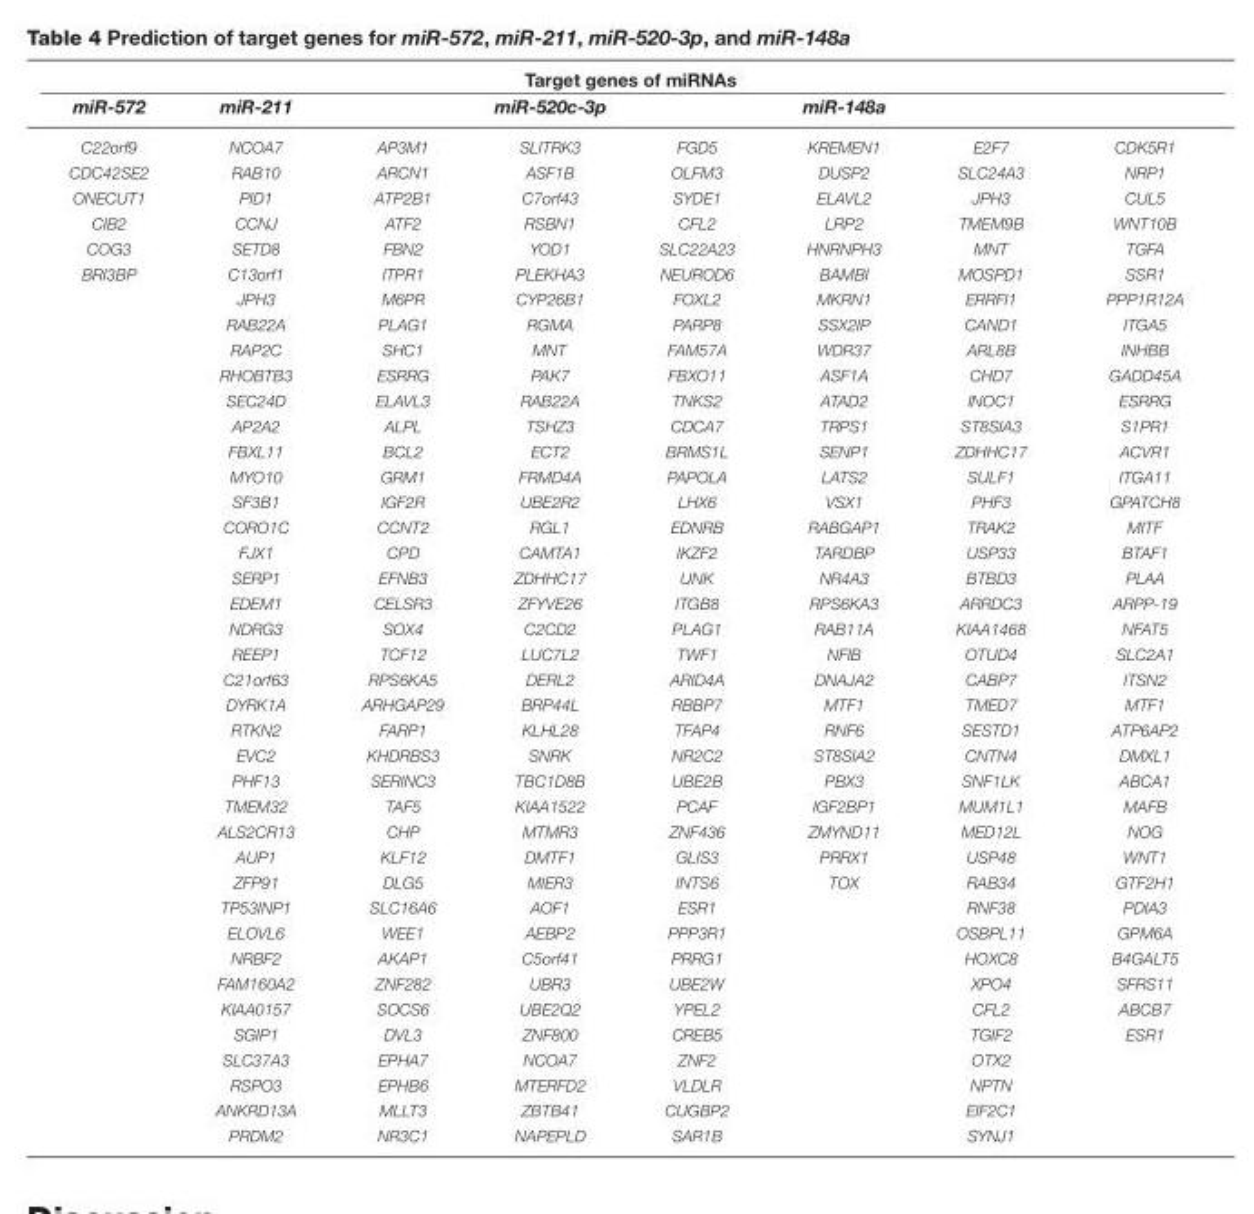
<table><thead><tr><td colspan="8">Target genes of miRNAs</td></tr><tr><td>miR-572</td><td>miR-211</td><td></td><td>miR-520c-3p</td><td></td><td>miR-148a</td><td></td><td></td></tr></thead><tbody><tr><td>C22orf9</td><td>NCOA7</td><td>AP3M1</td><td>SLITRK3</td><td>FGD5</td><td>KREMEN1</td><td>E2F7</td><td>CDK5R1</td></tr><tr><td>CDC42SE2</td><td>RAB10</td><td>ARCN1</td><td>ASF1B</td><td>OLFM3</td><td>DUSP2</td><td>SLC24A3</td><td>NRP1</td></tr><tr><td>ONECUT1</td><td>PID1</td><td>ATP2B1</td><td>C7orf43</td><td>SYDE1</td><td>ELAVL2</td><td>JPH3</td><td>CUL5</td></tr><tr><td>CIB2</td><td>CCNJ</td><td>ATF2</td><td>RSBN1</td><td>CFL2</td><td>LRP2</td><td>TMEM9B</td><td>WNT10B</td></tr><tr><td>COG3</td><td>SETD8</td><td>FBN2</td><td>YOD1</td><td>SLC22A23</td><td>HNRNPH3</td><td>MNT</td><td>TGFA</td></tr><tr><td rowspan="35">BRI3BP</td><td>C13orf1</td><td>ITPR1</td><td>PLEKHA3</td><td>NEUROD6</td><td>BAMBI</td><td>MOSPD1</td><td>SSR1</td></tr><tr><td>JPH3</td><td>M6PR</td><td>CYP26B1</td><td>FOXL2</td><td>MKRN1</td><td>ERRFI1</td><td>PPP1R12A</td></tr><tr><td>RAB22A</td><td>PLAG1</td><td>RGMA</td><td>PARP8</td><td>SSX2IP</td><td>CAND1</td><td>ITGA5</td></tr><tr><td>RAP2C</td><td>SHC1</td><td>MNT</td><td>FAM57A</td><td>WDR37</td><td>ARL8B</td><td>INHBB</td></tr><tr><td>RHOBTB3</td><td>ESRRG</td><td>PAK7</td><td>FBXO11</td><td>ASF1A</td><td>CHD7</td><td>GADD45A</td></tr><tr><td>SEC24D</td><td>ELAVL3</td><td>RAB22A</td><td>TNKS2</td><td>ATAD2</td><td>INOC1</td><td>ESRRG</td></tr><tr><td>AP2A2</td><td>ALPL</td><td>TSHZ3</td><td>CDCA7</td><td>TRPS1</td><td>ST8SIA3</td><td>S1PR1</td></tr><tr><td>FBXL11</td><td>BCL2</td><td>ECT2</td><td>BRMS1L</td><td>SENP1</td><td>ZDHHC17</td><td>ACVR1</td></tr><tr><td>MYO10</td><td>GRM1</td><td>FRMD4A</td><td>PAPOLA</td><td>LATS2</td><td>SULF1</td><td>ITGA11</td></tr><tr><td>SF3B1</td><td>IGF2R</td><td>UBE2R2</td><td>LHX6</td><td>VSX1</td><td>PHF3</td><td>GPATCH8</td></tr><tr><td>CORO1C</td><td>CCNT2</td><td>RGL1</td><td>EDNRB</td><td>RABGAP1</td><td>TRAK2</td><td>MITF</td></tr><tr><td>FJX1</td><td>CPD</td><td>CAMTA1</td><td>IKZF2</td><td>TARDBP</td><td>USP33</td><td>BTAF1</td></tr><tr><td>SERP1</td><td>EFNB3</td><td>ZDHHC17</td><td>UNK</td><td>NR4A3</td><td>BTBD3</td><td>PLAA</td></tr><tr><td>EDEM1</td><td>CELSR3</td><td>ZFYVE26</td><td>ITGB8</td><td>RPS6KA3</td><td>ARRDC3</td><td>ARPP-19</td></tr><tr><td>NDRG3</td><td>SOX4</td><td>C2CD2</td><td>PLAG1</td><td>RAB11A</td><td>KIAA1468</td><td>NFAT5</td></tr><tr><td>REEP1</td><td>TCF12</td><td>LUC7L2</td><td>TWF1</td><td>NFIB</td><td>OTUD4</td><td>SLC2A1</td></tr><tr><td>C21orf63</td><td>RPS6KA5</td><td>DERL2</td><td>ARID4A</td><td>DNAJA2</td><td>CABP7</td><td>ITSN2</td></tr><tr><td>DYRK1A</td><td>ARHGAP29</td><td>BRP44L</td><td>RBBP7</td><td>MTF1</td><td>TMED7</td><td>MTF1</td></tr><tr><td>RTKN2</td><td>FARP1</td><td>KLHL28</td><td>TFAP4</td><td>RNF6</td><td>SESTD1</td><td>ATP6AP2</td></tr><tr><td>EVC2</td><td>KHDRBS3</td><td>SNRK</td><td>NR2C2</td><td>ST8SIA2</td><td>CNTN4</td><td>DMXL1</td></tr><tr><td>PHF13</td><td>SERINC3</td><td>TBC1D8B</td><td>UBE2B</td><td>PBX3</td><td>SNF1LK</td><td>ABCA1</td></tr><tr><td>TMEM32</td><td>TAF5</td><td>KIAA1522</td><td>PCAF</td><td>IGF2BP1</td><td>MUM1L1</td><td>MAFB</td></tr><tr><td>ALS2CR13</td><td>CHP</td><td>MTMR3</td><td>ZNF436</td><td>ZMYND11</td><td>MED12L</td><td>NOG</td></tr><tr><td>AUP1</td><td>KLF12</td><td>DMTF1</td><td>GLIS3</td><td>PRRX1</td><td>USP48</td><td>WNT1</td></tr><tr><td>ZFP91</td><td>DLG5</td><td>MIER3</td><td>INTS6</td><td>TOX</td><td>RAB34</td><td>GTF2H1</td></tr><tr><td>TP53INP1</td><td>SLC16A6</td><td>AOF1</td><td>ESR1</td><td></td><td>RNF38</td><td>PDIA3</td></tr><tr><td>ELOVL6</td><td>WEE1</td><td>AEBP2</td><td>PPP3R1</td><td></td><td>OSBPL11</td><td>GPM6A</td></tr><tr><td>NRBF2</td><td>AKAP1</td><td>C5orf41</td><td>PRRG1</td><td></td><td>HOXC8</td><td>B4GALT5</td></tr><tr><td>FAM160A2</td><td>ZNF282</td><td>UBR3</td><td>UBE2W</td><td></td><td>XPO4</td><td>SFRS11</td></tr><tr><td>KIAA0157</td><td>SOCS6</td><td>UBE2Q2</td><td>YPEL2</td><td></td><td>CFL2</td><td>ABCB7</td></tr><tr><td>SGIP1</td><td>DVL3</td><td>ZNF800</td><td>CREB5</td><td></td><td>TGIF2</td><td>ESR1</td></tr><tr><td>SLC37A3</td><td>EPHA7</td><td>NCOA7</td><td>ZNF2</td><td></td><td>OTX2</td><td></td></tr><tr><td>RSPO3</td><td>EPHB6</td><td>MTERFD2</td><td>VLDLR</td><td></td><td>NPTN</td><td></td></tr><tr><td>ANKRD13A</td><td>MLLT3</td><td>ZBTB41</td><td>CUGBP2</td><td></td><td>EIF2C1</td><td></td></tr><tr><td>PRDM2</td><td>NR3C1</td><td>NAPEPLD</td><td>SAR1B</td><td></td><td>SYNJ1</td><td></td></tr></tbody></table>